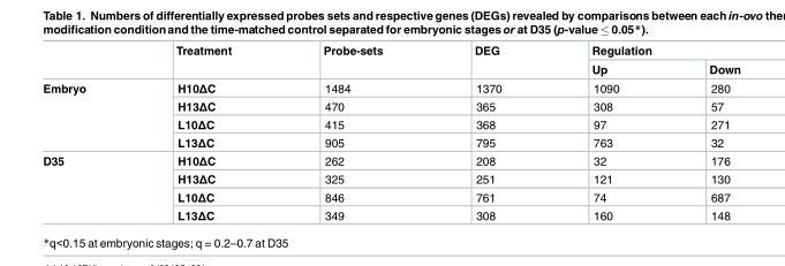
<table><thead><tr><td rowspan="2"></td><td rowspan="2">Treatment</td><td rowspan="2">Probe-sets</td><td rowspan="2">DEG</td><td colspan="2">Regulation</td></tr><tr><td>Up</td><td>Down</td></tr></thead><tbody><tr><td rowspan="4">Embryo</td><td>H10ΔC</td><td>1484</td><td>1370</td><td>1090</td><td>280</td></tr><tr><td>H13ΔC</td><td>470</td><td>365</td><td>308</td><td>57</td></tr><tr><td>L10ΔC</td><td>415</td><td>368</td><td>97</td><td>271</td></tr><tr><td>L13ΔC</td><td>905</td><td>795</td><td>763</td><td>32</td></tr><tr><td rowspan="4">D35</td><td>H10ΔC</td><td>262</td><td>208</td><td>32</td><td>176</td></tr><tr><td>H13ΔC</td><td>325</td><td>251</td><td>121</td><td>130</td></tr><tr><td>L10ΔC</td><td>846</td><td>761</td><td>74</td><td>687</td></tr><tr><td>L13ΔC</td><td>349</td><td>308</td><td>160</td><td>148</td></tr></tbody></table>